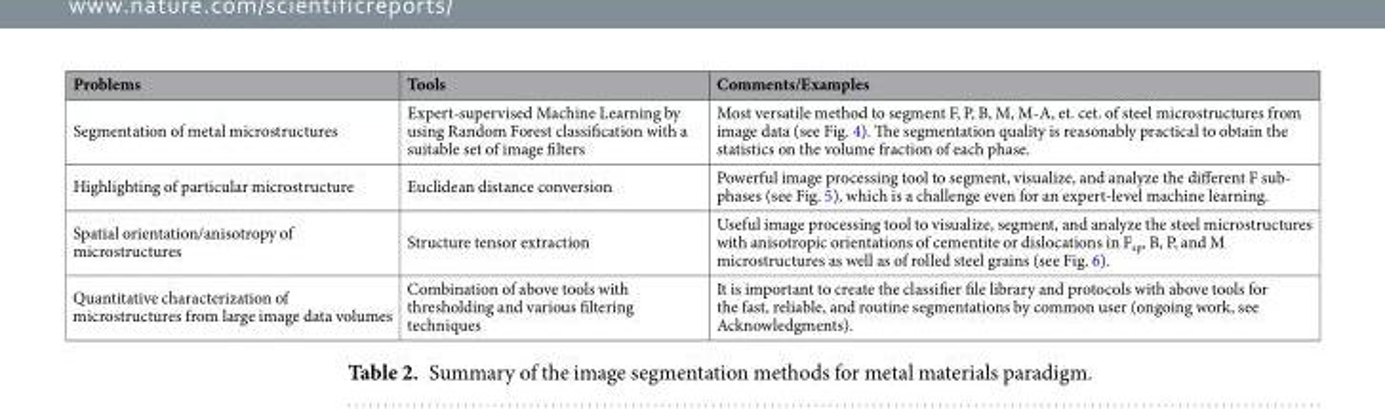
<table><thead><tr><td>Problems</td><td>Tools</td><td>Comments/Examples</td></tr></thead><tbody><tr><td>Segmentation of metal microstructures</td><td>Expert-supervised Machine Learning by using Random Forest classification with a suitable set of image filters</td><td>Most versatile method to segment F, P, B, M, M-A, et. cet. of steel microstructures from image data (see Fig. 4). The segmentation quality is reasonably practical to obtain the statistics on the volume fraction of each phase.</td></tr><tr><td>Highlighting of particular microstructure</td><td>Euclidean distance conversion</td><td>Powerful image processing tool to segment, visualize, and analyze the different F sub- phases (see Fig. 5), which is a challenge even for an expert-level machine learning.</td></tr><tr><td>Spatial orientation/anisotropy of microstructures</td><td>Structure tensor extraction</td><td>Useful image processing tool to visualize, segment, and analyze the steel microstructures with anisotropic orientations of cementite or dislocations in F<sub>sp</sub>, B, P, and M microstructures as well as of rolled steel grains (see Fig. 6).</td></tr><tr><td>Quantitative characterization of microstructures from large image data volumes</td><td>Combination of above tools with thresholding and various filtering techniques</td><td>It is important to create the classifier file library and protocols with above tools for the fast, reliable, and routine segmentations by common user (ongoing work, see Acknowledgments).</td></tr></tbody></table>